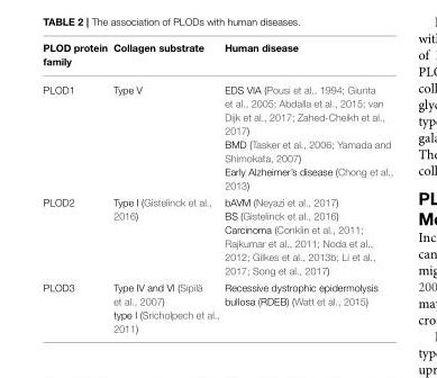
<table><thead><tr><td>PLOD protein family</td><td>Collagen substrate</td><td>Human disease</td></tr></thead><tbody><tr><td>PLOD1</td><td>Type V</td><td>EDS VIA (Pousi et al., 1994; Giunta et al., 2005; Abdalla et al., 2015; van Dijk et al., 2017; Zahed-Cheikh et al., 2017) BMD (Tasker et al., 2006; Yamada and Shimokata, 2007) Early Alzheimer’s disease (Chong et al., 2013)</td></tr><tr><td>PLOD2</td><td>Type I (Gistelinck et al., 2016)</td><td>bAVM (Neyazi et al., 2017) BS (Gistelinck et al., 2016) Carcinoma (Conklin et al., 2011; Rajkumar et al., 2011; Noda et al., 2012; Gilkes et al., 2013b; Li et al., 2017; Song et al., 2017)</td></tr><tr><td>PLOD3</td><td>Type IV and VI (Sipilä et al., 2007) type I (Sricholpech et al., 2011)</td><td>Recessive dystrophic epidermolysis bullosa (RDEB) (Watt et al., 2015)</td></tr></tbody></table>